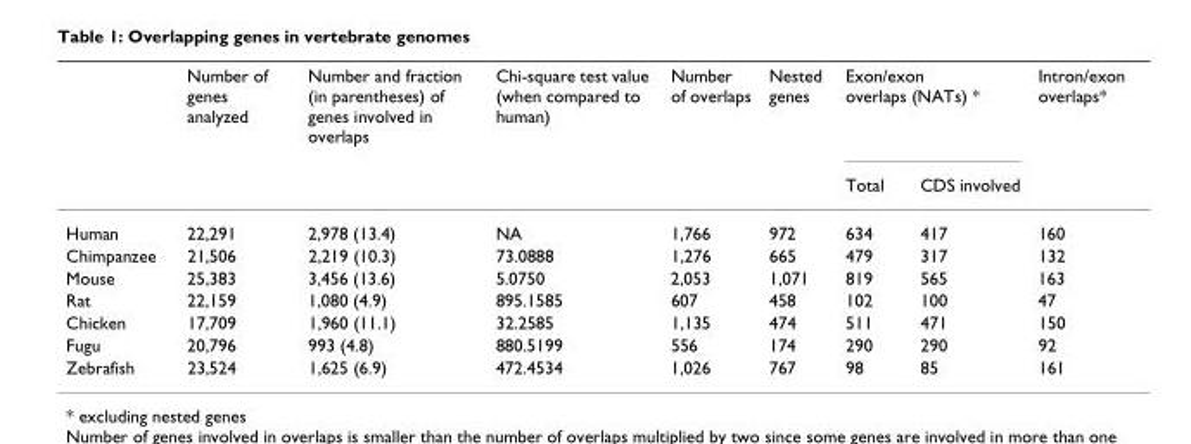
<table><thead><tr><td rowspan="2"></td><td rowspan="2">Number of genes analyzed</td><td rowspan="2">Number and fraction (in parentheses) of genes involved in overlaps</td><td rowspan="2">Chi-square test value (when compared to human)</td><td rowspan="2">Number of overlaps</td><td rowspan="2">Nested genes</td><td colspan="2">Exon/exon overlaps (NATs) *</td><td rowspan="2">Intron/exon overlaps*</td></tr><tr><td>Total</td><td>CDS involved</td></tr></thead><tbody><tr><td>Human</td><td>22,291</td><td>2,978 (13.4)</td><td>NA</td><td>1,766</td><td>972</td><td>634</td><td>417</td><td>160</td></tr><tr><td>Chimpanzee</td><td>21,506</td><td>2,219 (10.3)</td><td>73.0888</td><td>1,276</td><td>665</td><td>479</td><td>317</td><td>132</td></tr><tr><td>Mouse</td><td>25,383</td><td>3,456 (13.6)</td><td>5.0750</td><td>2,053</td><td>1,071</td><td>819</td><td>565</td><td>163</td></tr><tr><td>Rat</td><td>22,159</td><td>1,080 (4.9)</td><td>895.1585</td><td>607</td><td>458</td><td>102</td><td>100</td><td>47</td></tr><tr><td>Chicken</td><td>17,709</td><td>1,960 (11.1)</td><td>32.2585</td><td>1,135</td><td>474</td><td>511</td><td>471</td><td>150</td></tr><tr><td>Fugu</td><td>20,796</td><td>993 (4.8)</td><td>880.5199</td><td>556</td><td>174</td><td>290</td><td>290</td><td>92</td></tr><tr><td>Zebrafish</td><td>23,524</td><td>1,625 (6.9)</td><td>472.4534</td><td>1,026</td><td>767</td><td>98</td><td>85</td><td>161</td></tr></tbody></table>